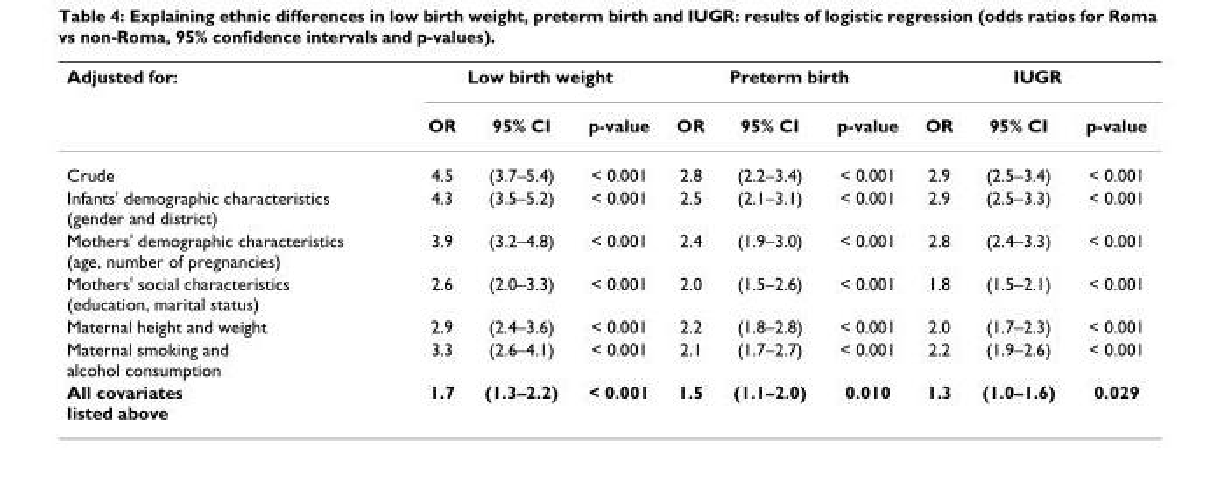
<table><thead><tr><td rowspan="2">Adjusted for:</td><td colspan="3">Low birth weight</td><td colspan="3">Preterm birth</td><td colspan="3">IUGR</td></tr><tr><td>OR</td><td>95% CI</td><td>p-value</td><td>OR</td><td>95% CI</td><td>p-value</td><td>OR</td><td>95% CI</td><td>p-value</td></tr></thead><tbody><tr><td>Crude</td><td>4.5</td><td>(3.7–5.4)</td><td>&lt; 0.001</td><td>2.8</td><td>(2.2–3.4)</td><td>&lt; 0.001</td><td>2.9</td><td>(2.5–3.4)</td><td>&lt; 0.001</td></tr><tr><td>Infants&#x27; demographic characteristics (gender and district)</td><td>4.3</td><td>(3.5–5.2)</td><td>&lt; 0.001</td><td>2.5</td><td>(2.1–3.1)</td><td>&lt; 0.001</td><td>2.9</td><td>(2.5–3.3)</td><td>&lt; 0.001</td></tr><tr><td>Mothers&#x27; demographic characteristics (age, number of pregnancies)</td><td>3.9</td><td>(3.2–4.8)</td><td>&lt; 0.001</td><td>2.4</td><td>(1.9–3.0)</td><td>&lt; 0.001</td><td>2.8</td><td>(2.4–3.3)</td><td>&lt; 0.001</td></tr><tr><td>Mothers&#x27; social characteristics (education, marital status)</td><td>2.6</td><td>(2.0–3.3)</td><td>&lt; 0.001</td><td>2.0</td><td>(1.5–2.6)</td><td>&lt; 0.001</td><td>1.8</td><td>(1.5–2.1)</td><td>&lt; 0.001</td></tr><tr><td>Maternal height and weight</td><td>2.9</td><td>(2.4–3.6)</td><td>&lt; 0.001</td><td>2.2</td><td>(1.8–2.8)</td><td>&lt; 0.001</td><td>2.0</td><td>(1.7–2.3)</td><td>&lt; 0.001</td></tr><tr><td>Maternal smoking and alcohol consumption</td><td>3.3</td><td>(2.6–4.1)</td><td>&lt; 0.001</td><td>2.1</td><td>(1.7–2.7)</td><td>&lt; 0.001</td><td>2.2</td><td>(1.9–2.6)</td><td>&lt; 0.001</td></tr><tr><td>All covariates listed above</td><td>1.7</td><td>(1.3–2.2)</td><td>&lt; 0.001</td><td>1.5</td><td>(1.1–2.0)</td><td>0.010</td><td>1.3</td><td>(1.0–1.6)</td><td>0.029</td></tr></tbody></table>